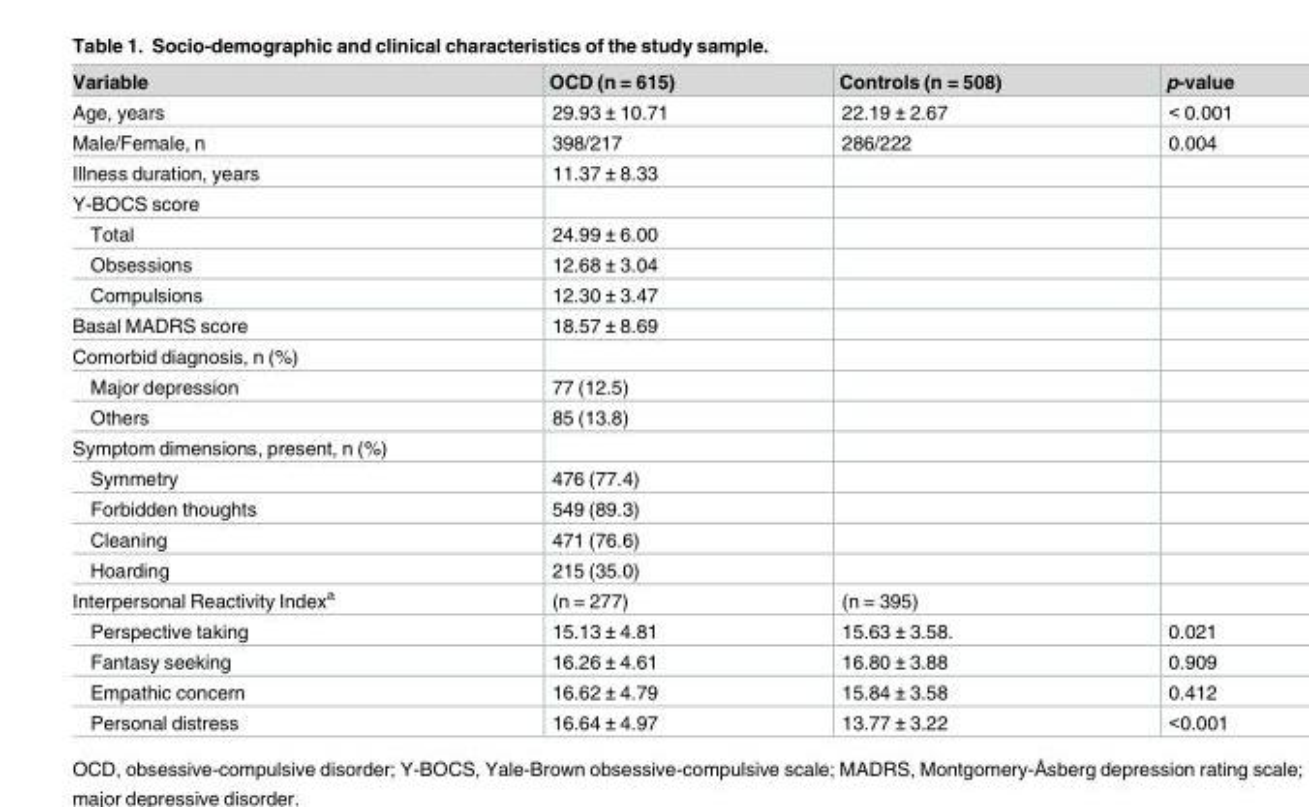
<table><thead><tr><td>Variable</td><td>OCD (n = 615)</td><td>Controls (n = 508)</td><td>p-value</td></tr></thead><tbody><tr><td>Age, years</td><td>29.93 ± 10.71</td><td>22.19 ± 2.67</td><td>&lt; 0.001</td></tr><tr><td>Male/Female, n</td><td>398/217</td><td>286/222</td><td>0.004</td></tr><tr><td>Illness duration, years</td><td>11.37 ± 8.33</td><td></td><td></td></tr><tr><td colspan="4">Y-BOCS score</td></tr><tr><td>Total</td><td>24.99 ± 6.00</td><td></td><td></td></tr><tr><td>Obsessions</td><td>12.68 ± 3.04</td><td></td><td></td></tr><tr><td>Compulsions</td><td>12.30 ± 3.47</td><td></td><td></td></tr><tr><td>Basal MADRS score</td><td>18.57 ± 8.69</td><td></td><td></td></tr><tr><td colspan="4">Comorbid diagnosis, n (%)</td></tr><tr><td>Major depression</td><td>77 (12.5)</td><td></td><td></td></tr><tr><td>Others</td><td>85 (13.8)</td><td></td><td></td></tr><tr><td colspan="4">Symptom dimensions, present, n (%)</td></tr><tr><td>Symmetry</td><td>476 (77.4)</td><td></td><td></td></tr><tr><td>Forbidden thoughts</td><td>549 (89.3)</td><td></td><td></td></tr><tr><td>Cleaning</td><td>471 (76.6)</td><td></td><td></td></tr><tr><td>Hoarding</td><td>215 (35.0)</td><td></td><td></td></tr><tr><td>Interpersonal Reactivity Index<sup>a</sup></td><td>(n = 277)</td><td>(n = 395)</td><td></td></tr><tr><td>Perspective taking</td><td>15.13 ± 4.81</td><td>15.63 ± 3.58.</td><td>0.021</td></tr><tr><td>Fantasy seeking</td><td>16.26 ± 4.61</td><td>16.80 ± 3.88</td><td>0.909</td></tr><tr><td>Empathic concern</td><td>16.62 ± 4.79</td><td>15.84 ± 3.58</td><td>0.412</td></tr><tr><td>Personal distress</td><td>16.64 ± 4.97</td><td>13.77 ± 3.22</td><td>&lt;0.001</td></tr></tbody></table>